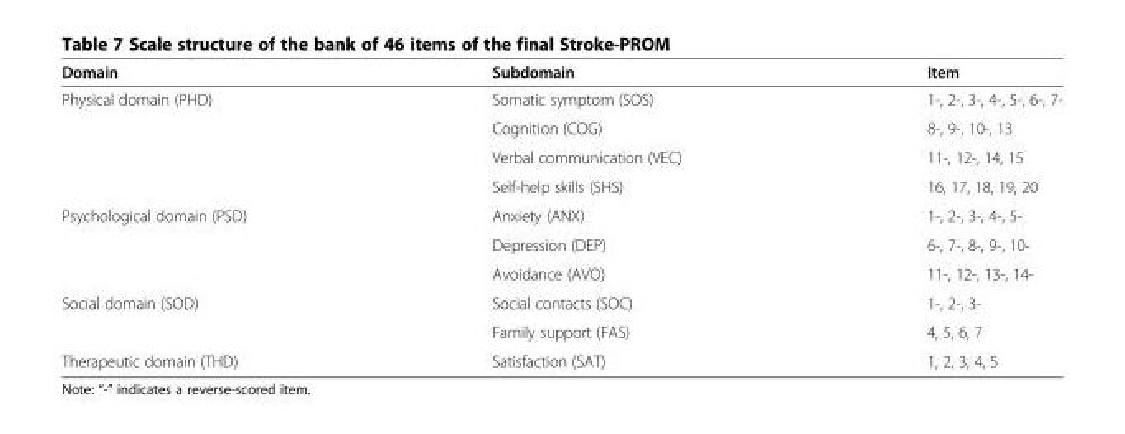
<table><thead><tr><td>Domain</td><td>Subdomain</td><td>Item</td></tr></thead><tbody><tr><td rowspan="4">Physical domain (PHD)</td><td>Somatic symptom (SOS)</td><td>1-, 2-, 3-, 4-, 5-, 6-, 7-</td></tr><tr><td>Cognition (COG)</td><td>8-, 9-, 10-, 13</td></tr><tr><td>Verbal communication (VEC)</td><td>11-, 12-, 14, 15</td></tr><tr><td>Self-help skills (SHS)</td><td>16, 17, 18, 19, 20</td></tr><tr><td rowspan="3">Psychological domain (PSD)</td><td>Anxiety (ANX)</td><td>1-, 2-, 3-, 4-, 5-</td></tr><tr><td>Depression (DEP)</td><td>6-, 7-, 8-, 9-, 10-</td></tr><tr><td>Avoidance (AVO)</td><td>11-, 12-, 13-, 14-</td></tr><tr><td rowspan="2">Social domain (SOD)</td><td>Social contacts (SOC)</td><td>1-, 2-, 3-</td></tr><tr><td>Family support (FAS)</td><td>4, 5, 6, 7</td></tr><tr><td>Therapeutic domain (THD)</td><td>Satisfaction (SAT)</td><td>1, 2, 3, 4, 5</td></tr></tbody></table>